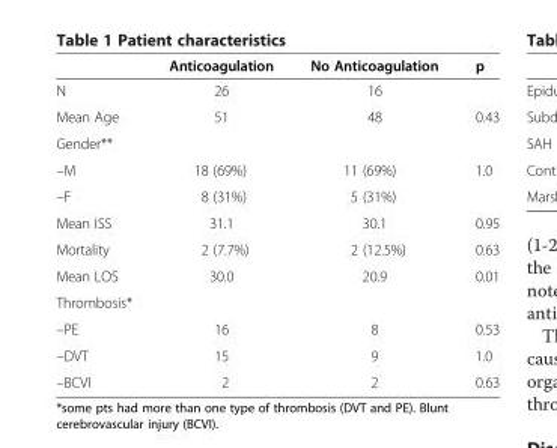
<table><thead><tr><td></td><td>Anticoagulation</td><td>No Anticoagulation</td><td>p</td></tr></thead><tbody><tr><td>N</td><td>26</td><td>16</td><td></td></tr><tr><td>Mean Age</td><td>51</td><td>48</td><td>0.43</td></tr><tr><td colspan="4">Gender**</td></tr><tr><td>–M</td><td>18 (69%)</td><td>11 (69%)</td><td>1.0</td></tr><tr><td>–F</td><td>8 (31%)</td><td>5 (31%)</td><td></td></tr><tr><td>Mean ISS</td><td>31.1</td><td>30.1</td><td>0.95</td></tr><tr><td>Mortality</td><td>2 (7.7%)</td><td>2 (12.5%)</td><td>0.63</td></tr><tr><td>Mean LOS</td><td>30.0</td><td>20.9</td><td>0.01</td></tr><tr><td colspan="4">Thrombosis*</td></tr><tr><td>–PE</td><td>16</td><td>8</td><td>0.53</td></tr><tr><td>–DVT</td><td>15</td><td>9</td><td>1.0</td></tr><tr><td>–BCVI</td><td>2</td><td>2</td><td>0.63</td></tr></tbody></table>